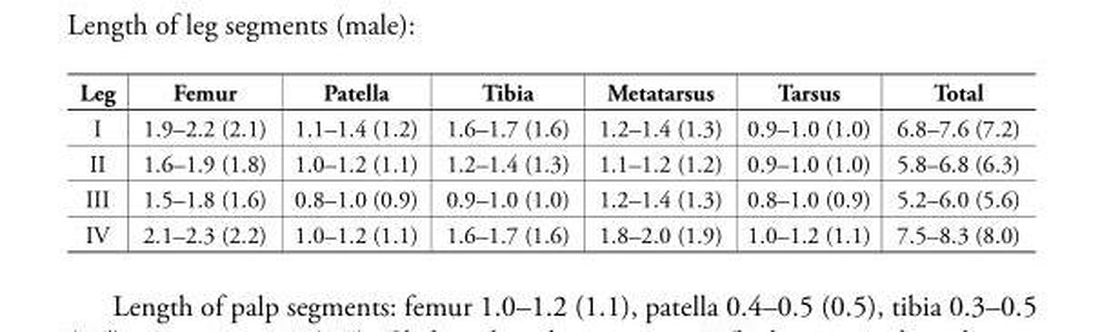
<table><thead><tr><td>Leg</td><td>Femur</td><td>Patella</td><td>Tibia</td><td>Metatarsus</td><td>Tarsus</td><td>Total</td></tr></thead><tbody><tr><td>I</td><td>1.9–2.2 (2.1)</td><td>1.1–1.4 (1.2)</td><td>1.6–1.7 (1.6)</td><td>1.2–1.4 (1.3)</td><td>0.9–1.0 (1.0)</td><td>6.8–7.6 (7.2)</td></tr><tr><td>II</td><td>1.6–1.9 (1.8)</td><td>1.0–1.2 (1.1)</td><td>1.2–1.4 (1.3)</td><td>1.1–1.2 (1.2)</td><td>0.9–1.0 (1.0)</td><td>5.8–6.8 (6.3)</td></tr><tr><td>III</td><td>1.5–1.8 (1.6)</td><td>0.8–1.0 (0.9)</td><td>0.9–1.0 (1.0)</td><td>1.2–1.4 (1.3)</td><td>0.8–1.0 (0.9)</td><td>5.2–6.0 (5.6)</td></tr><tr><td>IV</td><td>2.1–2.3 (2.2)</td><td>1.0–1.2 (1.1)</td><td>1.6–1.7 (1.6)</td><td>1.8–2.0 (1.9)</td><td>1.0–1.2 (1.1)</td><td>7.5–8.3 (8.0)</td></tr></tbody></table>